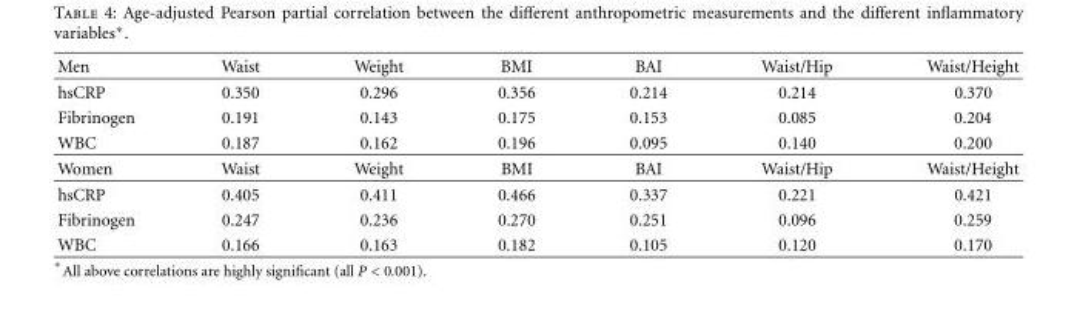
<table><thead><tr><td>Men</td><td>Waist</td><td>Weight</td><td>BMI</td><td>BAI</td><td>Waist/Hip</td><td>Waist/Height</td></tr></thead><tbody><tr><td>hsCRP</td><td>0.350</td><td>0.296</td><td>0.356</td><td>0.214</td><td>0.214</td><td>0.370</td></tr><tr><td>Fibrinogen</td><td>0.191</td><td>0.143</td><td>0.175</td><td>0.153</td><td>0.085</td><td>0.204</td></tr><tr><td>WBC</td><td>0.187</td><td>0.162</td><td>0.196</td><td>0.095</td><td>0.140</td><td>0.200</td></tr><tr><td>Women</td><td>Waist</td><td>Weight</td><td>BMI</td><td>BAI</td><td>Waist/Hip</td><td>Waist/Height</td></tr><tr><td>hsCRP</td><td>0.405</td><td>0.411</td><td>0.466</td><td>0.337</td><td>0.221</td><td>0.421</td></tr><tr><td>Fibrinogen</td><td>0.247</td><td>0.236</td><td>0.270</td><td>0.251</td><td>0.096</td><td>0.259</td></tr><tr><td>WBC</td><td>0.166</td><td>0.163</td><td>0.182</td><td>0.105</td><td>0.120</td><td>0.170</td></tr></tbody></table>